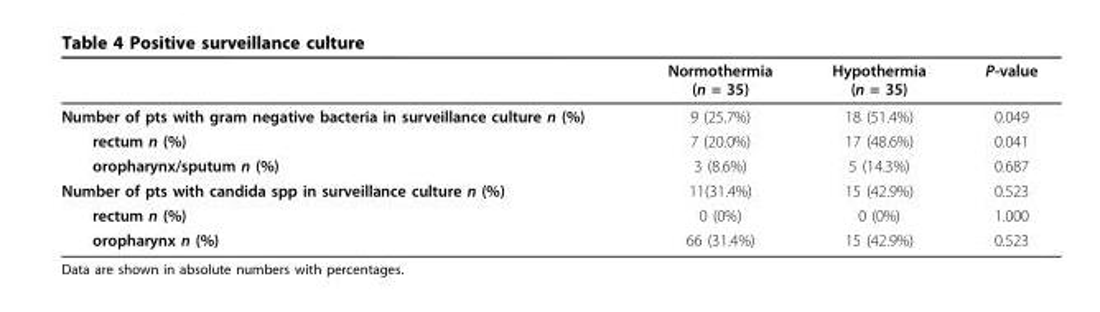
<table><thead><tr><td></td><td>Normothermia (n = 35)</td><td>Hypothermia (n = 35)</td><td>P-value</td></tr></thead><tbody><tr><td>Number of pts with gram negative bacteria in surveillance culture n (%)</td><td>9 (25.7%)</td><td>18 (51.4%)</td><td>0.049</td></tr><tr><td>rectum n (%)</td><td>7 (20.0%)</td><td>17 (48.6%)</td><td>0.041</td></tr><tr><td>oropharynx/sputum n (%)</td><td>3 (8.6%)</td><td>5 (14.3%)</td><td>0.687</td></tr><tr><td>Number of pts with candida spp in surveillance culture n (%)</td><td>11(31.4%)</td><td>15 (42.9%)</td><td>0.523</td></tr><tr><td>rectum n (%)</td><td>0 (0%)</td><td>0 (0%)</td><td>1.000</td></tr><tr><td>oropharynx n (%)</td><td>66 (31.4%)</td><td>15 (42.9%)</td><td>0.523</td></tr></tbody></table>